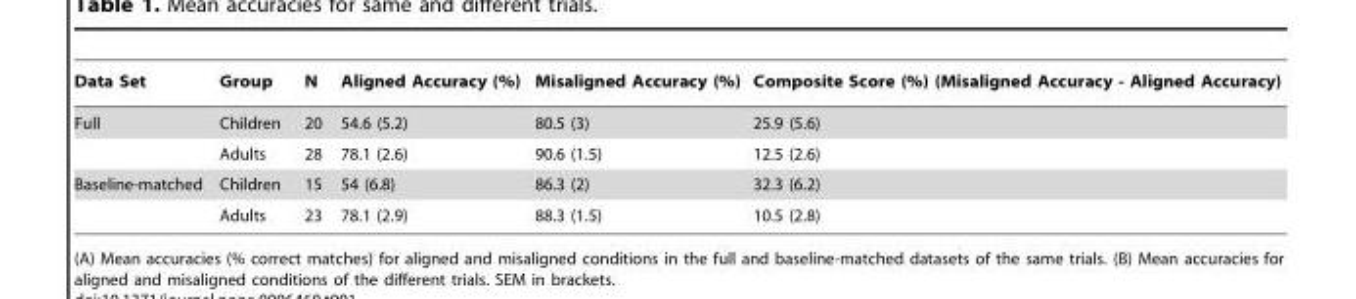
<table><thead><tr><td>Data Set</td><td>Group</td><td>N</td><td>Aligned Accuracy (%)</td><td>Misaligned Accuracy (%)</td><td>Composite Score (%) (Misaligned Accuracy - Aligned Accuracy)</td></tr></thead><tbody><tr><td rowspan="2">Full</td><td>Children</td><td>20</td><td>54.6 (5.2)</td><td>80.5 (3)</td><td>25.9 (5.6)</td></tr><tr><td>Adults</td><td>28</td><td>78.1 (2.6)</td><td>90.6 (1.5)</td><td>12.5 (2.6)</td></tr><tr><td rowspan="2">Baseline-matched</td><td>Children</td><td>15</td><td>54 (6.8)</td><td>86.3 (2)</td><td>32.3 (6.2)</td></tr><tr><td>Adults</td><td>23</td><td>78.1 (2.9)</td><td>88.3 (1.5)</td><td>10.5 (2.8)</td></tr></tbody></table>